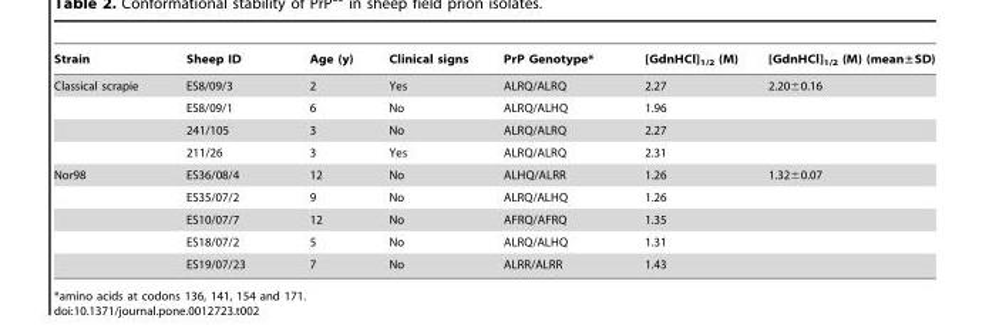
<table><thead><tr><td>Strain</td><td>Sheep ID</td><td>Age (y)</td><td>Clinical signs</td><td>PrP Genotype*</td><td>[GdnHCl]<sub>1/2</sub> (M)</td><td>[GdnHCl]<sub>1/2</sub> (M) (mean±SD)</td></tr></thead><tbody><tr><td rowspan="4">Classical scrapie</td><td>ES8/09/3</td><td>2</td><td>Yes</td><td>ALRQ/ALRQ</td><td>2.27</td><td>2.20±0.16</td></tr><tr><td>ES8/09/1</td><td>6</td><td>No</td><td>ALRQ/ALHQ</td><td>1.96</td><td></td></tr><tr><td>241/105</td><td>3</td><td>No</td><td>ALRQ/ALRQ</td><td>2.27</td><td></td></tr><tr><td>211/26</td><td>3</td><td>Yes</td><td>ALRQ/ALRQ</td><td>2.31</td><td></td></tr><tr><td rowspan="5">Nor98</td><td>ES36/08/4</td><td>12</td><td>No</td><td>ALHQ/ALRR</td><td>1.26</td><td>1.32±0.07</td></tr><tr><td>ES35/07/2</td><td>9</td><td>No</td><td>ALRQ/ALHQ</td><td>1.26</td><td></td></tr><tr><td>ES10/07/7</td><td>12</td><td>No</td><td>AFRQ/AFRQ</td><td>1.35</td><td></td></tr><tr><td>ES18/07/2</td><td>5</td><td>No</td><td>ALRQ/ALHQ</td><td>1.31</td><td></td></tr><tr><td>ES19/07/23</td><td>7</td><td>No</td><td>ALRR/ALRR</td><td>1.43</td><td></td></tr></tbody></table>